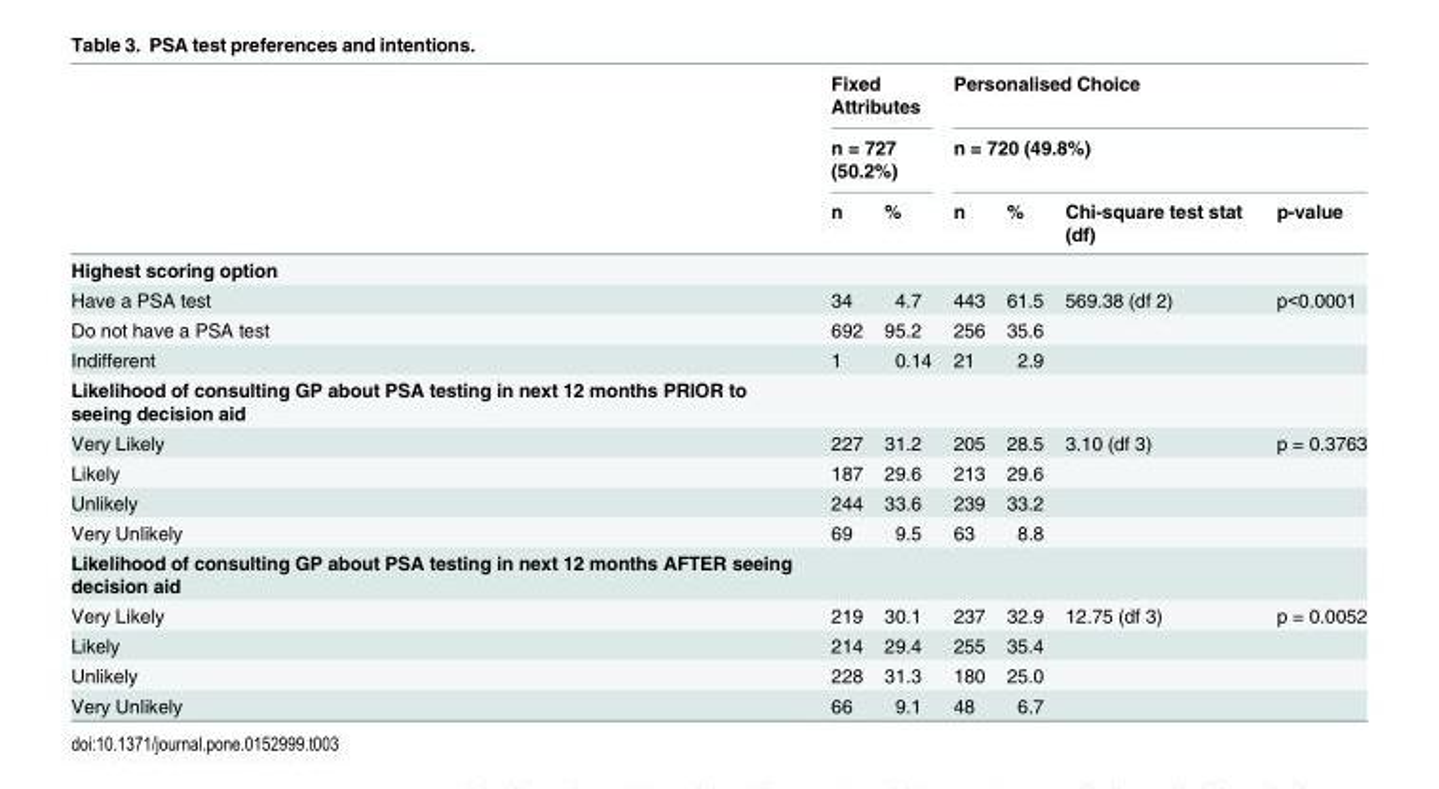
<table><thead><tr><td rowspan="3"></td><td rowspan="2" colspan="2">Fixed Attributes n = 727 (50.2%)</td><td rowspan="2" colspan="4">Personalised Choice n = 720 (49.8%)</td></tr><tr></tr><tr><td>n</td><td>%</td><td>n</td><td>%</td><td>Chi-square test stat (df)</td><td>p-value</td></tr></thead><tbody><tr><td colspan="7">Highest scoring option</td></tr><tr><td>Have a PSA test</td><td>34</td><td>4.7</td><td>443</td><td>61.5</td><td>569.38 (df 2)</td><td>p&lt;0.0001</td></tr><tr><td>Do not have a PSA test</td><td>692</td><td>95.2</td><td>256</td><td>35.6</td><td></td><td></td></tr><tr><td>Indifferent</td><td>1</td><td>0.14</td><td>21</td><td>2.9</td><td></td><td></td></tr><tr><td colspan="7">Likelihood of consulting GP about PSA testing in next 12 months PRIOR to seeing decision aid</td></tr><tr><td>Very Likely</td><td>227</td><td>31.2</td><td>205</td><td>28.5</td><td>3.10 (df 3)</td><td>p = 0.3763</td></tr><tr><td>Likely</td><td>187</td><td>29.6</td><td>213</td><td>29.6</td><td></td><td></td></tr><tr><td>Unlikely</td><td>244</td><td>33.6</td><td>239</td><td>33.2</td><td></td><td></td></tr><tr><td>Very Unlikely</td><td>69</td><td>9.5</td><td>63</td><td>8.8</td><td></td><td></td></tr><tr><td colspan="7">Likelihood of consulting GP about PSA testing in next 12 months AFTER seeing decision aid</td></tr><tr><td>Very Likely</td><td>219</td><td>30.1</td><td>237</td><td>32.9</td><td>12.75 (df 3)</td><td>p = 0.0052</td></tr><tr><td>Likely</td><td>214</td><td>29.4</td><td>255</td><td>35.4</td><td></td><td></td></tr><tr><td>Unlikely</td><td>228</td><td>31.3</td><td>180</td><td>25.0</td><td></td><td></td></tr><tr><td>Very Unlikely</td><td>66</td><td>9.1</td><td>48</td><td>6.7</td><td></td><td></td></tr></tbody></table>